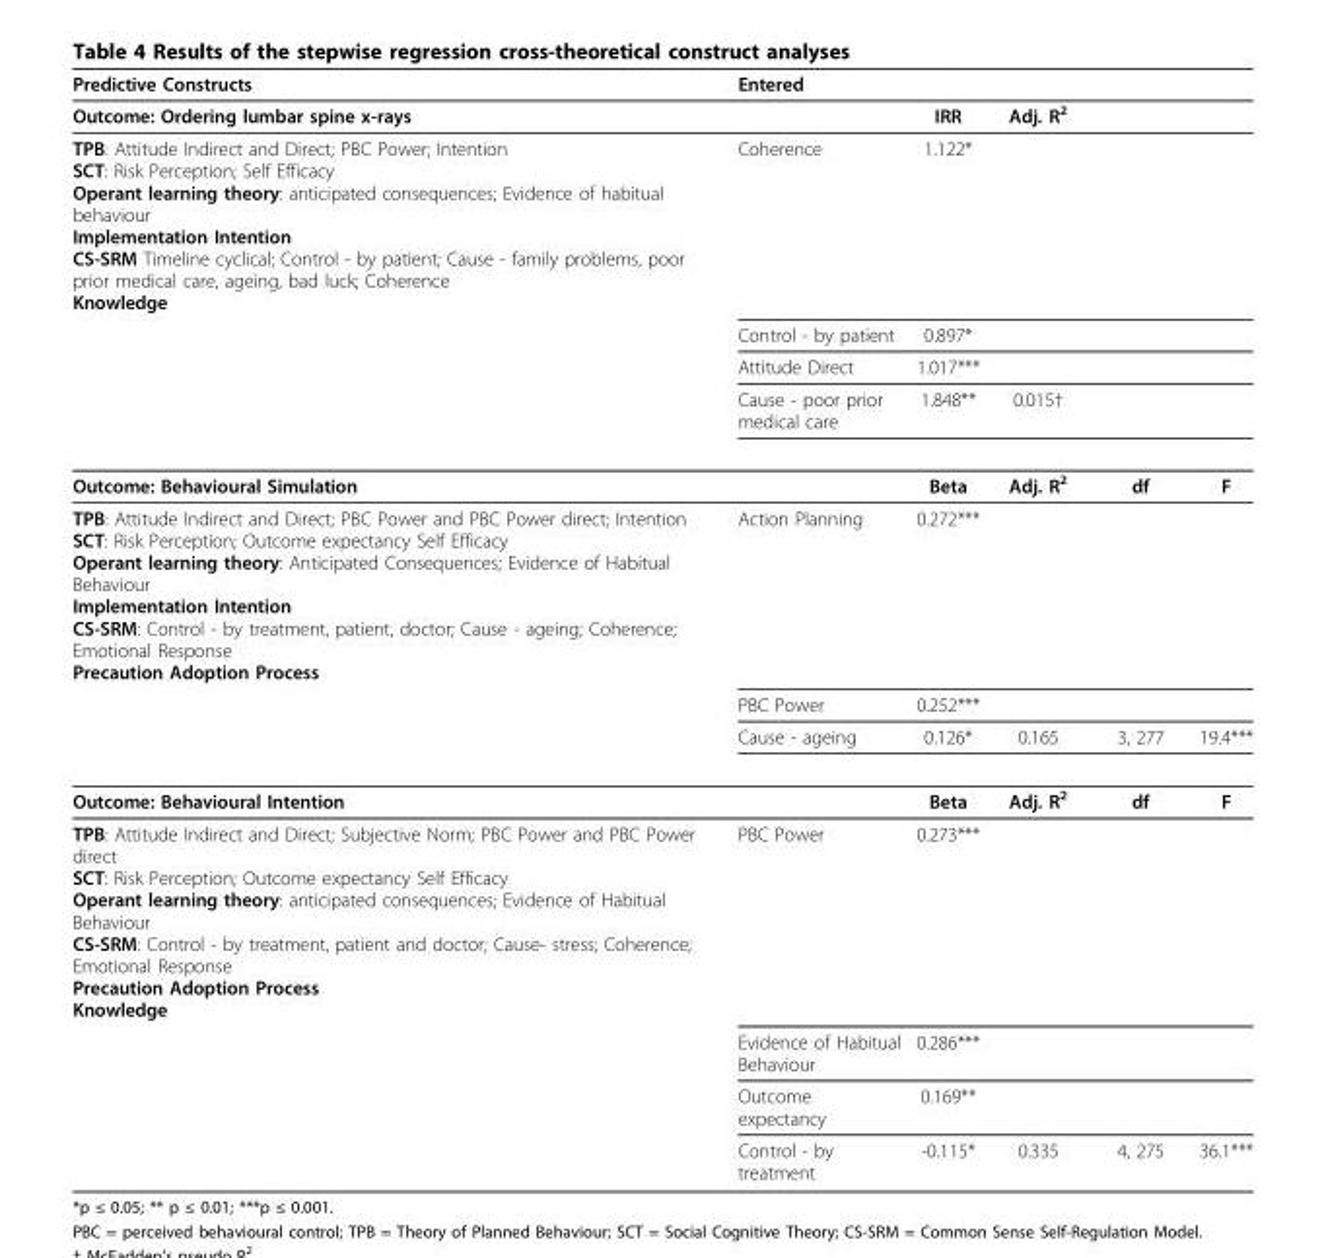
<table><thead><tr><td>Predictive Constructs</td><td>Entered</td><td></td><td></td><td></td><td></td></tr></thead><tbody><tr><td>Outcome: Ordering lumbar spine x-rays</td><td></td><td>IRR</td><td>Adj. R<sup>2</sup></td><td></td><td></td></tr><tr><td rowspan="4">TPB: Attitude Indirect and Direct; PBC Power; Intention SCT: Risk Perception; Self Efficacy Operant learning theory: anticipated consequences; Evidence of habitual behaviour Implementation Intention CS-SRM Timeline cyclical; Control - by patient; Cause - family problems, poor prior medical care, ageing, bad luck; Coherence Knowledge</td><td>Coherence</td><td>1.122*</td><td></td><td></td><td></td></tr><tr><td>Control - by patient</td><td>0.897*</td><td></td><td></td><td></td></tr><tr><td>Attitude Direct</td><td>1.017***</td><td></td><td></td><td></td></tr><tr><td>Cause - poor prior medical care</td><td>1.848**</td><td>0.015†</td><td></td><td></td></tr><tr><td>Outcome: Behavioural Simulation</td><td></td><td>Beta</td><td>Adj. R<sup>2</sup></td><td>df</td><td>F</td></tr><tr><td rowspan="3">TPB: Attitude Indirect and Direct; PBC Power and PBC Power direct; Intention SCT: Risk Perception; Outcome expectancy Self Efficacy Operant learning theory: Anticipated Consequences; Evidence of Habitual Behaviour Implementation Intention CS-SRM: Control - by treatment, patient, doctor; Cause - ageing; Coherence; Emotional Response Precaution Adoption Process</td><td>Action Planning</td><td>0.272***</td><td></td><td></td><td></td></tr><tr><td>PBC Power</td><td>0.252***</td><td></td><td></td><td></td></tr><tr><td>Cause - ageing</td><td>0.126*</td><td>0.165</td><td>3, 277</td><td>19.4***</td></tr><tr><td>Outcome: Behavioural Intention</td><td></td><td>Beta</td><td>Adj. R<sup>2</sup></td><td>df</td><td>F</td></tr><tr><td rowspan="4">TPB: Attitude Indirect and Direct; Subjective Norm; PBC Power and PBC Power direct SCT: Risk Perception; Outcome expectancy Self Efficacy Operant learning theory: anticipated consequences; Evidence of Habitual Behaviour CS-SRM: Control - by treatment, patient and doctor; Cause- stress; Coherence; Emotional Response Precaution Adoption Process Knowledge</td><td>PBC Power</td><td>0.273***</td><td></td><td></td><td></td></tr><tr><td>Evidence of Habitual Behaviour</td><td>0.286***</td><td></td><td></td><td></td></tr><tr><td>Outcome expectancy</td><td>0.169**</td><td></td><td></td><td></td></tr><tr><td>Control - by treatment</td><td>-0.115*</td><td>0.335</td><td>4, 275</td><td>36.1***</td></tr></tbody></table>